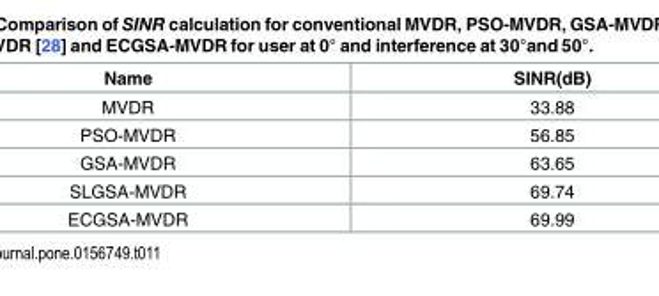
<table><thead><tr><td>Name</td><td>SINR(dB)</td></tr></thead><tbody><tr><td>MVDR</td><td>33.88</td></tr><tr><td>PSO-MVDR</td><td>56.85</td></tr><tr><td>GSA-MVDR</td><td>63.65</td></tr><tr><td>SLGSA-MVDR</td><td>69.74</td></tr><tr><td>ECGSA-MVDR</td><td>69.99</td></tr></tbody></table>